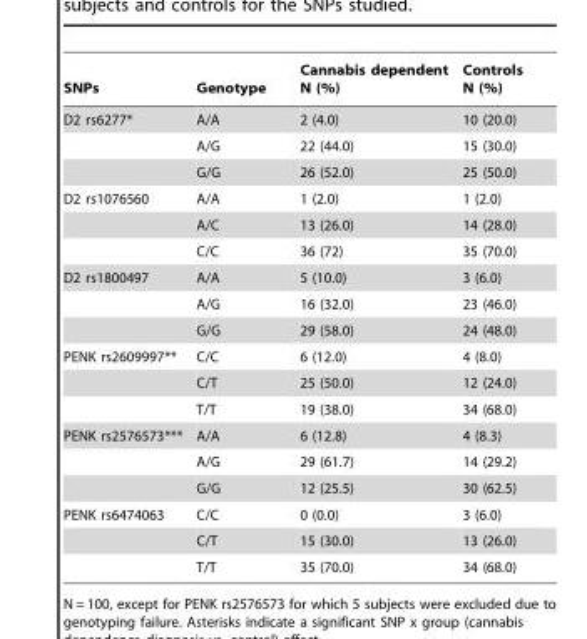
<table><thead><tr><td>SNPs</td><td>Genotype</td><td>Cannabis dependent N (%)</td><td>Controls N (%)</td></tr></thead><tbody><tr><td rowspan="3">D2 rs6277*</td><td>A/A</td><td>2 (4.0)</td><td>10 (20.0)</td></tr><tr><td>A/G</td><td>22 (44.0)</td><td>15 (30.0)</td></tr><tr><td>G/G</td><td>26 (52.0)</td><td>25 (50.0)</td></tr><tr><td rowspan="3">D2 rs1076560</td><td>A/A</td><td>1 (2.0)</td><td>1 (2.0)</td></tr><tr><td>A/C</td><td>13 (26.0)</td><td>14 (28.0)</td></tr><tr><td>C/C</td><td>36 (72)</td><td>35 (70.0)</td></tr><tr><td rowspan="3">D2 rs1800497</td><td>A/A</td><td>5 (10.0)</td><td>3 (6.0)</td></tr><tr><td>A/G</td><td>16 (32.0)</td><td>23 (46.0)</td></tr><tr><td>G/G</td><td>29 (58.0)</td><td>24 (48.0)</td></tr><tr><td rowspan="3">PENK rs2609997**</td><td>C/C</td><td>6 (12.0)</td><td>4 (8.0)</td></tr><tr><td>C/T</td><td>25 (50.0)</td><td>12 (24.0)</td></tr><tr><td>T/T</td><td>19 (38.0)</td><td>34 (68.0)</td></tr><tr><td rowspan="3">PENK rs2576573***</td><td>A/A</td><td>6 (12.8)</td><td>4 (8.3)</td></tr><tr><td>A/G</td><td>29 (61.7)</td><td>14 (29.2)</td></tr><tr><td>G/G</td><td>12 (25.5)</td><td>30 (62.5)</td></tr><tr><td rowspan="3">PENK rs6474063</td><td>C/C</td><td>0 (0.0)</td><td>3 (6.0)</td></tr><tr><td>C/T</td><td>15 (30.0)</td><td>13 (26.0)</td></tr><tr><td>T/T</td><td>35 (70.0)</td><td>34 (68.0)</td></tr></tbody></table>